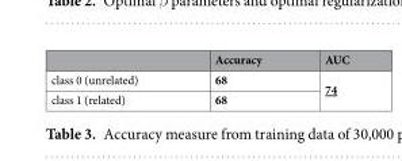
<table><thead><tr><td></td><td>Accuracy</td><td>AUC</td></tr></thead><tbody><tr><td>class 0 (unrelated)</td><td>68</td><td rowspan="2">74</td></tr><tr><td>class 1 (related)</td><td>68</td></tr></tbody></table>